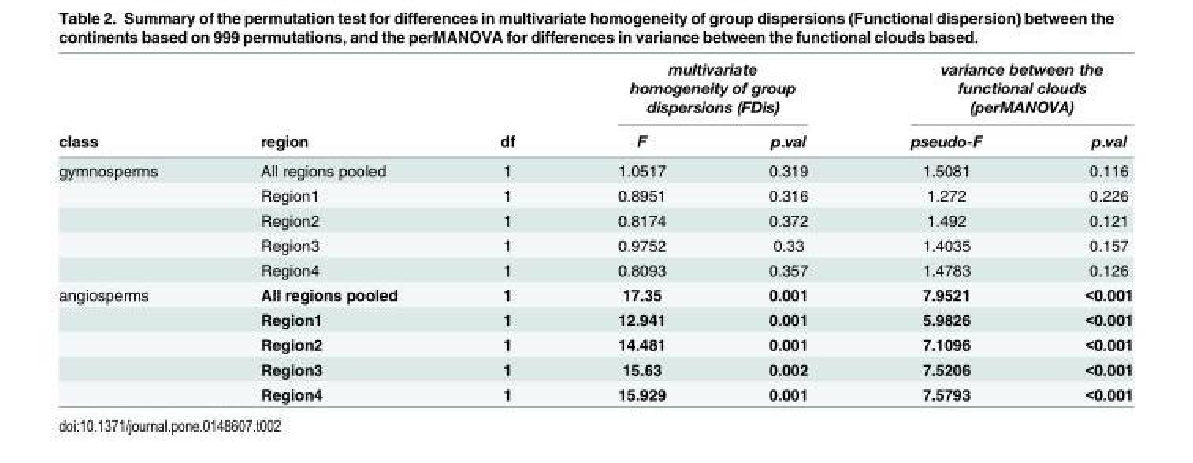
<table><thead><tr><td rowspan="2">class</td><td rowspan="2">region</td><td rowspan="2">df</td><td colspan="2">multivariate homogeneity of group dispersions (FDis)</td><td colspan="2">variance between the functional clouds (perMANOVA)</td></tr><tr><td>F</td><td>p.val</td><td>pseudo-F</td><td>p.val</td></tr></thead><tbody><tr><td rowspan="5">gymnosperms</td><td>All regions pooled</td><td>1</td><td>1.0517</td><td>0.319</td><td>1.5081</td><td>0.116</td></tr><tr><td>Region1</td><td>1</td><td>0.8951</td><td>0.316</td><td>1.272</td><td>0.226</td></tr><tr><td>Region2</td><td>1</td><td>0.8174</td><td>0.372</td><td>1.492</td><td>0.121</td></tr><tr><td>Region3</td><td>1</td><td>0.9752</td><td>0.33</td><td>1.4035</td><td>0.157</td></tr><tr><td>Region4</td><td>1</td><td>0.8093</td><td>0.357</td><td>1.4783</td><td>0.126</td></tr><tr><td rowspan="5">angiosperms</td><td>All regions pooled</td><td>1</td><td>17.35</td><td>0.001</td><td>7.9521</td><td>&lt;0.001</td></tr><tr><td>Region1</td><td>1</td><td>12.941</td><td>0.001</td><td>5.9826</td><td>&lt;0.001</td></tr><tr><td>Region2</td><td>1</td><td>14.481</td><td>0.001</td><td>7.1096</td><td>&lt;0.001</td></tr><tr><td>Region3</td><td>1</td><td>15.63</td><td>0.002</td><td>7.5206</td><td>&lt;0.001</td></tr><tr><td>Region4</td><td>1</td><td>15.929</td><td>0.001</td><td>7.5793</td><td>&lt;0.001</td></tr></tbody></table>